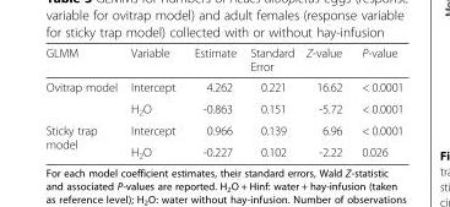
<table><thead><tr><td>GLMM</td><td>Variable</td><td>Estimate</td><td>Standard Error</td><td>Z-value</td><td>P-value</td></tr></thead><tbody><tr><td rowspan="2">Ovitrap model</td><td>Intercept</td><td>4.262</td><td>0.221</td><td>16.62</td><td>&lt; 0.0001</td></tr><tr><td>H<sub>2</sub>O</td><td>-0.863</td><td>0.151</td><td>-5.72</td><td>&lt; 0.0001</td></tr><tr><td rowspan="2">Sticky trap model</td><td>Intercept</td><td>0.966</td><td>0.139</td><td>6.96</td><td>&lt; 0.0001</td></tr><tr><td>H<sub>2</sub>O</td><td>-0.227</td><td>0.102</td><td>-2.22</td><td>0.026</td></tr></tbody></table>